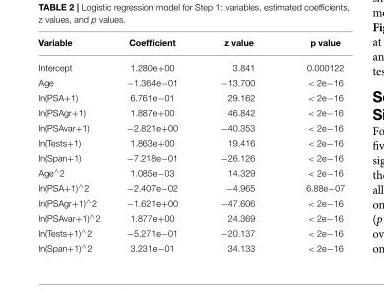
<table><thead><tr><td>Variable</td><td>Coefficient</td><td>z value</td><td>p value</td></tr></thead><tbody><tr><td>Intercept</td><td>1.280e+00</td><td>3.841</td><td>0.000122</td></tr><tr><td>Age</td><td>−1.364e−01</td><td>−13.700</td><td>&lt; 2e−16</td></tr><tr><td>ln(PSA+1)</td><td>6.761e−01</td><td>29.162</td><td>&lt; 2e−16</td></tr><tr><td>ln(PSAgr+1)</td><td>1.887e+00</td><td>46.842</td><td>&lt; 2e−16</td></tr><tr><td>ln(PSAvar+1)</td><td>−2.821e+00</td><td>−40.353</td><td>&lt; 2e−16</td></tr><tr><td>ln(Tests+1)</td><td>1.863e+00</td><td>19.416</td><td>&lt; 2e−16</td></tr><tr><td>ln(Span+1)</td><td>−7.218e−01</td><td>−26.126</td><td>&lt; 2e−16</td></tr><tr><td>Age<sup>∧</sup>2</td><td>1.085e−03</td><td>14.329</td><td>&lt; 2e−16</td></tr><tr><td>ln(PSA+1)<sup>∧</sup>2</td><td>−2.407e−02</td><td>−4.965</td><td>6.88e−07</td></tr><tr><td>ln(PSAgr+1)<sup>∧</sup>2</td><td>−1.621e+00</td><td>−47.606</td><td>&lt; 2e−16</td></tr><tr><td>ln(PSAvar+1)<sup>∧</sup>2</td><td>1.877e+00</td><td>24.369</td><td>&lt; 2e−16</td></tr><tr><td>ln(Tests+1)<sup>∧</sup>2</td><td>−5.271e−01</td><td>−20.137</td><td>&lt; 2e−16</td></tr><tr><td>ln(Span+1)<sup>∧</sup>2</td><td>3.231e−01</td><td>34.133</td><td>&lt; 2e−16</td></tr></tbody></table>